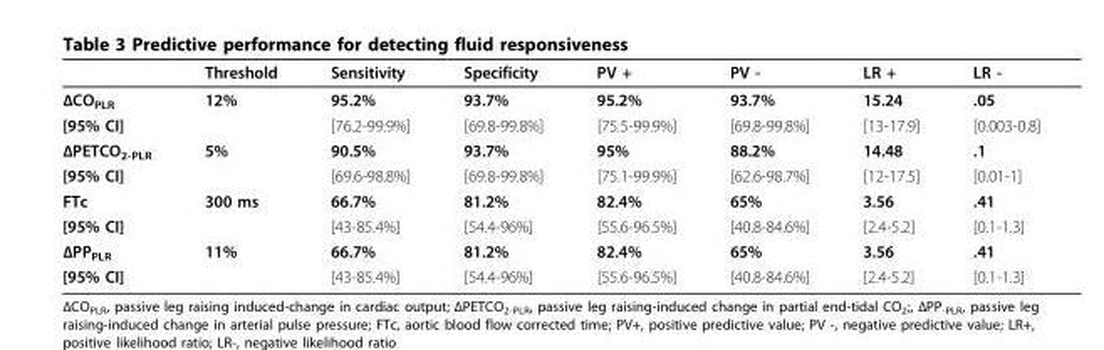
<table><thead><tr><td></td><td>Threshold</td><td>Sensitivity</td><td>Specificity</td><td>PV +</td><td>PV -</td><td>LR +</td><td>LR -</td></tr></thead><tbody><tr><td>ΔCO<sub>PLR</sub></td><td>12%</td><td>95.2%</td><td>93.7%</td><td>95.2%</td><td>93.7%</td><td>15.24</td><td>.05</td></tr><tr><td>[95% CI]</td><td></td><td>[76.2-99.9%]</td><td>[69.8-99.8%]</td><td>[75.5-99.9%]</td><td>[69.8-99.8%]</td><td>[13-17.9]</td><td>[0.003-0.8]</td></tr><tr><td>ΔPETCO<sub>2-PLR</sub></td><td>5%</td><td>90.5%</td><td>93.7%</td><td>95%</td><td>88.2%</td><td>14.48</td><td>.1</td></tr><tr><td>[95% CI]</td><td></td><td>[69.6-98.8%]</td><td>[69.8-99.8%]</td><td>[75.1-99.9%]</td><td>[62.6-98.7%]</td><td>[12-17.5]</td><td>[0.01-1]</td></tr><tr><td>FTc</td><td>300 ms</td><td>66.7%</td><td>81.2%</td><td>82.4%</td><td>65%</td><td>3.56</td><td>.41</td></tr><tr><td>[95% CI]</td><td></td><td>[43-85.4%]</td><td>[54.4-96%]</td><td>[55.6-96.5%]</td><td>[40.8-84.6%]</td><td>[2.4-5.2]</td><td>[0.1-1.3]</td></tr><tr><td>ΔPP<sub>PLR</sub></td><td>11%</td><td>66.7%</td><td>81.2%</td><td>82.4%</td><td>65%</td><td>3.56</td><td>.41</td></tr><tr><td>[95% CI]</td><td></td><td>[43-85.4%]</td><td>[54.4-96%]</td><td>[55.6-96.5%]</td><td>[40.8-84.6%]</td><td>[2.4-5.2]</td><td>[0.1-1.3]</td></tr></tbody></table>